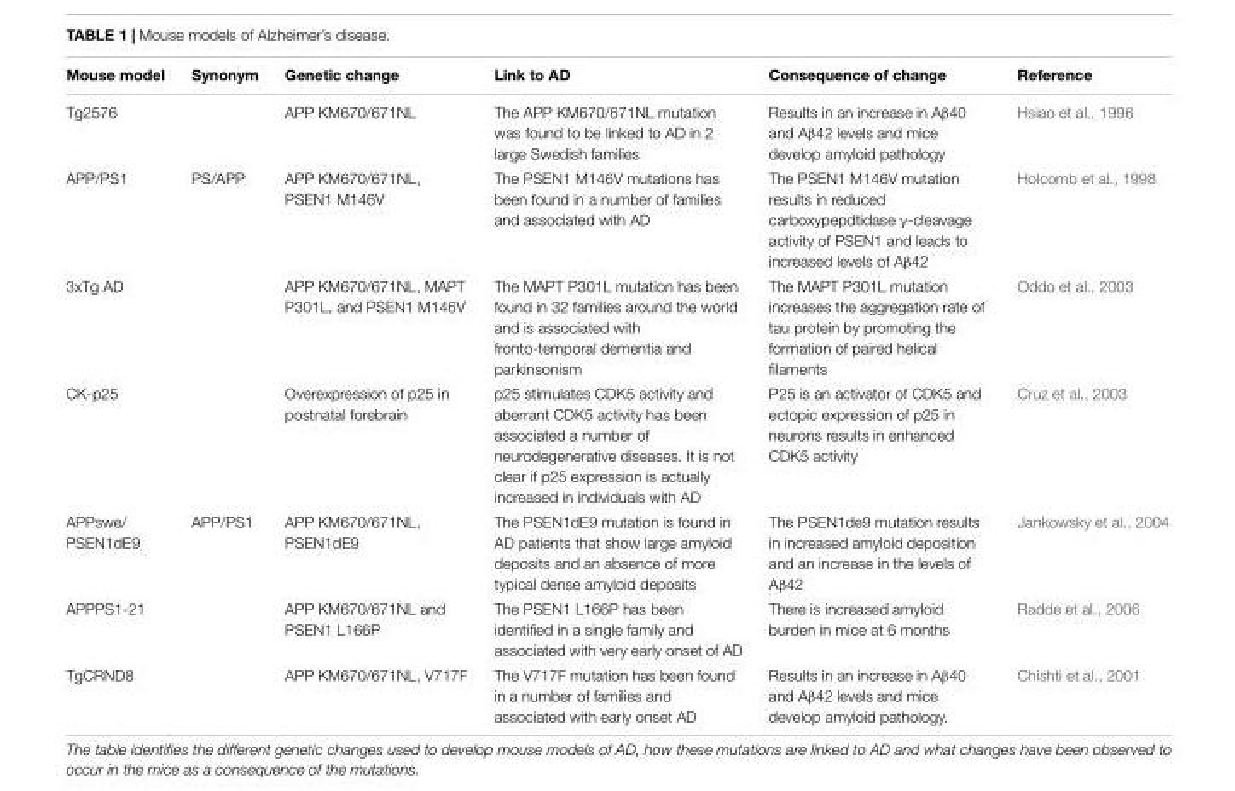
<table><thead><tr><td>Mouse model</td><td>Synonym</td><td>Genetic change</td><td>Link to AD</td><td>Consequence of change</td><td>Reference</td></tr></thead><tbody><tr><td>Tg2576</td><td></td><td>APP KM670/671NL</td><td>The APP KM670/671NL mutation was found to be linked to AD in 2 large Swedish families</td><td>Results in an increase in Aβ40 and Aβ42 levels and mice develop amyloid pathology</td><td>Hsiao et al., 1996</td></tr><tr><td>APP/PS1</td><td>PS/APP</td><td>APP KM670/671NL, PSEN1 M146V</td><td>The PSEN1 M146V mutations has been found in a number of families and associated with AD</td><td>The PSEN1 M146V mutation results in reduced carboxypepdtidase γ-cleavage activity of PSEN1 and leads to increased levels of Aβ42</td><td>Holcomb et al., 1998</td></tr><tr><td>3xTg AD</td><td></td><td>APP KM670/671NL, MAPT P301L, and PSEN1 M146V</td><td>The MAPT P301L mutation has been found in 32 families around the world and is associated with fronto-temporal dementia and parkinsonism</td><td>The MAPT P301L mutation increases the aggregation rate of tau protein by promoting the formation of paired helical filaments</td><td>Oddo et al., 2003</td></tr><tr><td>CK-p25</td><td></td><td>Overexpression of p25 in postnatal forebrain</td><td>p25 stimulates CDK5 activity and aberrant CDK5 activity has been associated a number of neurodegenerative diseases. It is not clear if p25 expression is actually increased in individuals with AD</td><td>P25 is an activator of CDK5 and ectopic expression of p25 in neurons results in enhanced CDK5 activity</td><td>Cruz et al., 2003</td></tr><tr><td>APPswe/ PSEN1dE9</td><td>APP/PS1</td><td>APP KM670/671NL, PSEN1dE9</td><td>The PSEN1dE9 mutation is found in AD patients that show large amyloid deposits and an absence of more typical dense amyloid deposits</td><td>The PSEN1de9 mutation results in increased amyloid deposition and an increase in the levels of Aβ42</td><td>Jankowsky et al., 2004</td></tr><tr><td>APPPS1-21</td><td></td><td>APP KM670/671NL and PSEN1 L166P</td><td>The PSEN1 L166P has been identified in a single family and associated with very early onset of AD</td><td>There is increased amyloid burden in mice at 6 months</td><td>Radde et al., 2006</td></tr><tr><td>TgCRND8</td><td></td><td>APP KM670/671NL, V717F</td><td>The V717F mutation has been found in a number of families and associated with early onset AD</td><td>Results in an increase in Aβ40 and Aβ42 levels and mice develop amyloid pathology.</td><td>Chishti et al., 2001</td></tr></tbody></table>